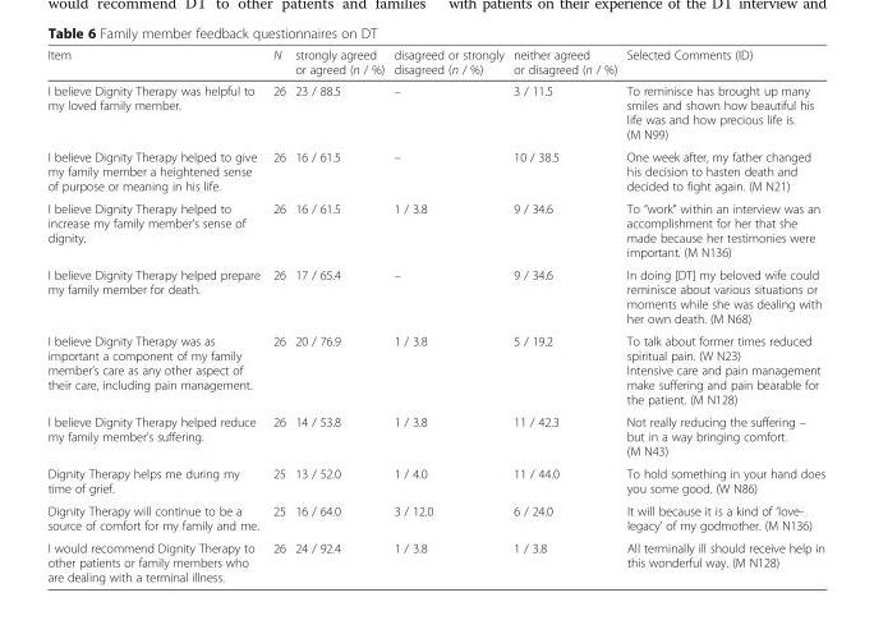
<table><thead><tr><td>Item</td><td>N</td><td>strongly agreed or agreed (n / %)</td><td>disagreed or strongly disagreed (n / %)</td><td>neither agreed or disagreed (n / %)</td><td>Selected Comments (ID)</td></tr></thead><tbody><tr><td>I believe Dignity Therapy was helpful to my loved family member.</td><td>26</td><td>23 / 88.5</td><td>–</td><td>3 / 11.5</td><td>To reminisce has brought up many smiles and shown how beautiful his life was and how precious life is. (M N99)</td></tr><tr><td>I believe Dignity Therapy helped to give my family member a heightened sense of purpose or meaning in his life.</td><td>26</td><td>16 / 61.5</td><td>–</td><td>10 / 38.5</td><td>One week after, my father changed his decision to hasten death and decided to fight again. (M N21)</td></tr><tr><td>I believe Dignity Therapy helped to increase my family member’s sense of dignity.</td><td>26</td><td>16 / 61.5</td><td>1 / 3.8</td><td>9 / 34.6</td><td>To “work” within an interview was an accomplishment for her that she made because her testimonies were important. (M N136)</td></tr><tr><td>I believe Dignity Therapy helped prepare my family member for death.</td><td>26</td><td>17 / 65.4</td><td>–</td><td>9 / 34.6</td><td>In doing [DT] my beloved wife could reminisce about various situations or moments while she was dealing with her own death. (M N68)</td></tr><tr><td>I believe Dignity Therapy was as important a component of my family member’s care as any other aspect of their care, including pain management.</td><td>26</td><td>20 / 76.9</td><td>1 / 3.8</td><td>5 / 19.2</td><td>To talk about former times reduced spiritual pain. (W N23) Intensive care and pain management make suffering and pain bearable for the patient. (M N128)</td></tr><tr><td>I believe Dignity Therapy helped reduce my family member’s suffering.</td><td>26</td><td>14 / 53.8</td><td>1 / 3.8</td><td>11 / 42.3</td><td>Not really reducing the suffering – but in a way bringing comfort. (M N43)</td></tr><tr><td>Dignity Therapy helps me during my time of grief.</td><td>25</td><td>13 / 52.0</td><td>1 / 4.0</td><td>11 / 44.0</td><td>To hold something in your hand does you some good. (W N86)</td></tr><tr><td>Dignity Therapy will continue to be a source of comfort for my family and me.</td><td>25</td><td>16 / 64.0</td><td>3 / 12.0</td><td>6 / 24.0</td><td>It will because it is a kind of ‘love- legacy’ of my godmother. (M N136)</td></tr><tr><td>I would recommend Dignity Therapy to other patients or family members who are dealing with a terminal illness.</td><td>26</td><td>24 / 92.4</td><td>1 / 3.8</td><td>1 / 3.8</td><td>All terminally ill should receive help in this wonderful way. (M N128)</td></tr></tbody></table>